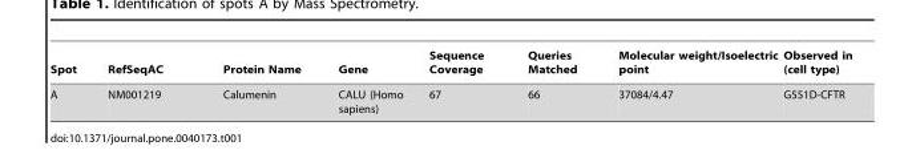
<table><thead><tr><td>Spot</td><td>RefSeqAC</td><td>Protein Name</td><td>Gene</td><td>Sequence Coverage</td><td>Queries Matched</td><td>Molecular weight/Isoelectric point</td><td>Observed in (cell type)</td></tr></thead><tbody><tr><td>A</td><td>NM001219</td><td>Calumenin</td><td>CALU (Homo sapiens)</td><td>67</td><td>66</td><td>37084/4.47</td><td>G551D-CFTR</td></tr></tbody></table>